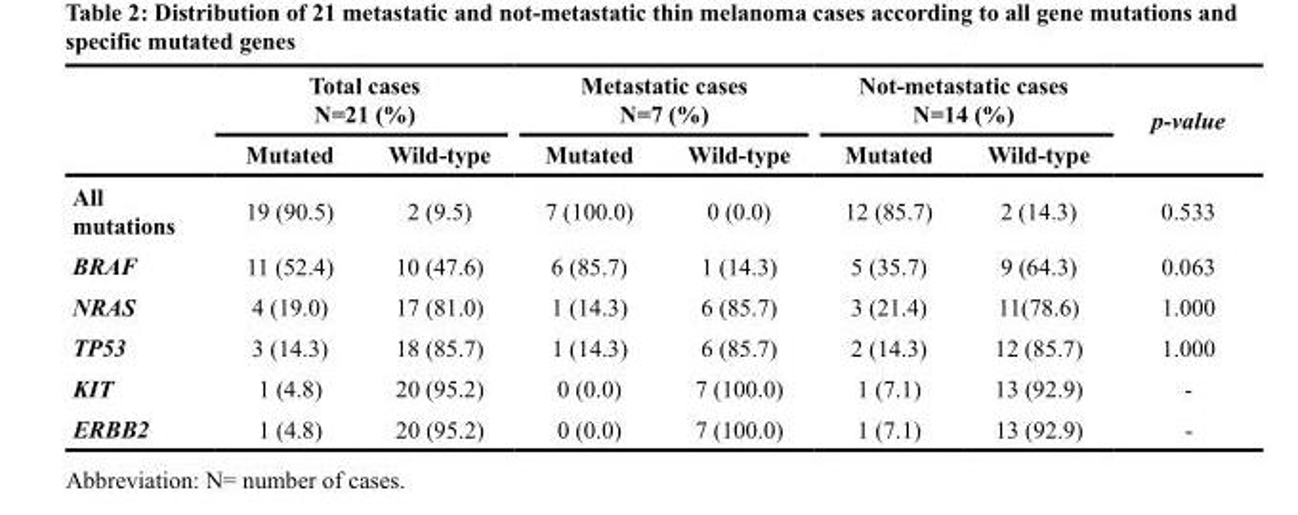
<table><thead><tr><td rowspan="2"></td><td colspan="2">Total cases N=21 (%)</td><td colspan="2">Metastatic cases N=7 (%)</td><td colspan="2">Not-metastatic cases N=14 (%)</td><td rowspan="2">p-value</td></tr><tr><td>Mutated</td><td>Wild-type</td><td>Mutated</td><td>Wild-type</td><td>Mutated</td><td>Wild-type</td></tr></thead><tbody><tr><td>All mutations</td><td>19 (90.5)</td><td>2 (9.5)</td><td>7 (100.0)</td><td>0 (0.0)</td><td>12 (85.7)</td><td>2 (14.3)</td><td>0.533</td></tr><tr><td>BRAF</td><td>11 (52.4)</td><td>10 (47.6)</td><td>6 (85.7)</td><td>1 (14.3)</td><td>5 (35.7)</td><td>9 (64.3)</td><td>0.063</td></tr><tr><td>NRAS</td><td>4 (19.0)</td><td>17 (81.0)</td><td>1 (14.3)</td><td>6 (85.7)</td><td>3 (21.4)</td><td>11(78.6)</td><td>1.000</td></tr><tr><td>TP53</td><td>3 (14.3)</td><td>18 (85.7)</td><td>1 (14.3)</td><td>6 (85.7)</td><td>2 (14.3)</td><td>12 (85.7)</td><td>1.000</td></tr><tr><td>KIT</td><td>1 (4.8)</td><td>20 (95.2)</td><td>0 (0.0)</td><td>7 (100.0)</td><td>1 (7.1)</td><td>13 (92.9)</td><td>-</td></tr><tr><td>ERBB2</td><td>1 (4.8)</td><td>20 (95.2)</td><td>0 (0.0)</td><td>7 (100.0)</td><td>1 (7.1)</td><td>13 (92.9)</td><td>-</td></tr></tbody></table>